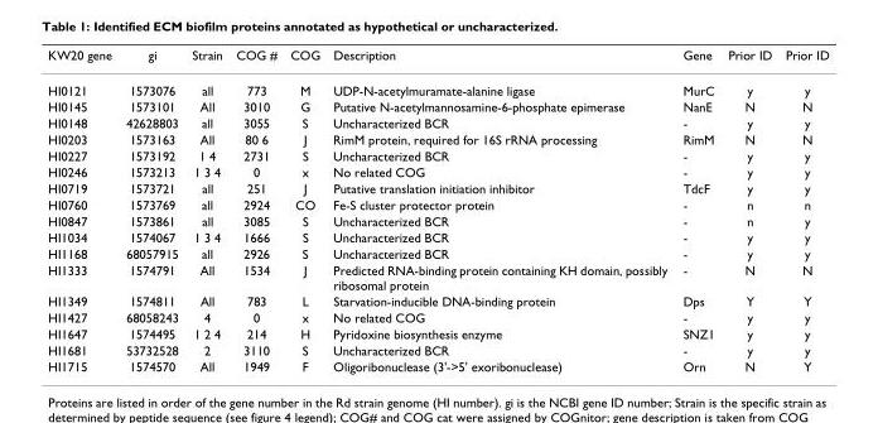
<table><thead><tr><td>KW20 gene</td><td>gi</td><td>Strain</td><td>COG #</td><td>COG</td><td>Description</td><td>Gene</td><td>Prior ID</td><td>Prior ID</td></tr></thead><tbody><tr><td>HI0121</td><td>1573076</td><td>all</td><td>773</td><td>M</td><td>UDP-N-acetylmuramate-alanine ligase</td><td>MurC</td><td>y</td><td>y</td></tr><tr><td>HI0145</td><td>1573101</td><td>All</td><td>3010</td><td>G</td><td>Putative N-acetylmannosamine-6-phosphate epimerase</td><td>NanE</td><td>N</td><td>N</td></tr><tr><td>HI0148</td><td>42628803</td><td>all</td><td>3055</td><td>S</td><td>Uncharacterized BCR</td><td>-</td><td>y</td><td>y</td></tr><tr><td>HI0203</td><td>1573163</td><td>All</td><td>80 6</td><td>J</td><td>RimM protein, required for 16S rRNA processing</td><td>RimM</td><td>N</td><td>N</td></tr><tr><td>HI0227</td><td>1573192</td><td>1 4</td><td>2731</td><td>S</td><td>Uncharacterized BCR</td><td>-</td><td>y</td><td>y</td></tr><tr><td>HI0246</td><td>1573213</td><td>1 3 4</td><td>0</td><td>x</td><td>No related COG</td><td>-</td><td>y</td><td>y</td></tr><tr><td>HI0719</td><td>1573721</td><td>all</td><td>251</td><td>J</td><td>Putative translation initiation inhibitor</td><td>TdcF</td><td>y</td><td>y</td></tr><tr><td>HI0760</td><td>1573769</td><td>all</td><td>2924</td><td>CO</td><td>Fe-S cluster protector protein</td><td>-</td><td>n</td><td>n</td></tr><tr><td>HI0847</td><td>1573861</td><td>all</td><td>3085</td><td>S</td><td>Uncharacterized BCR</td><td>-</td><td>n</td><td>y</td></tr><tr><td>HI1034</td><td>1574067</td><td>1 3 4</td><td>1666</td><td>S</td><td>Uncharacterized BCR</td><td>-</td><td>y</td><td>y</td></tr><tr><td>HI1168</td><td>68057915</td><td>all</td><td>2926</td><td>S</td><td>Uncharacterized BCR</td><td>-</td><td>y</td><td>y</td></tr><tr><td>HI1333</td><td>1574791</td><td>All</td><td>1534</td><td>J</td><td>Predicted RNA-binding protein containing KH domain, possibly ribosomal protein</td><td>-</td><td>N</td><td>N</td></tr><tr><td>HI1349</td><td>1574811</td><td>All</td><td>783</td><td>L</td><td>Starvation-inducible DNA-binding protein</td><td>Dps</td><td>Y</td><td>Y</td></tr><tr><td>HI1427</td><td>68058243</td><td>4</td><td>0</td><td>x</td><td>No related COG</td><td>-</td><td>y</td><td>y</td></tr><tr><td>HI1647</td><td>1574495</td><td>1 2 4</td><td>214</td><td>H</td><td>Pyridoxine biosynthesis enzyme</td><td>SNZ1</td><td>y</td><td>y</td></tr><tr><td>HI1681</td><td>53732528</td><td>2</td><td>3110</td><td>S</td><td>Uncharacterized BCR</td><td>-</td><td>y</td><td>y</td></tr><tr><td>HI1715</td><td>1574570</td><td>All</td><td>1949</td><td>F</td><td>Oligoribonuclease (3&#x27;-&gt;5&#x27; exoribonuclease)</td><td>Orn</td><td>N</td><td>Y</td></tr></tbody></table>